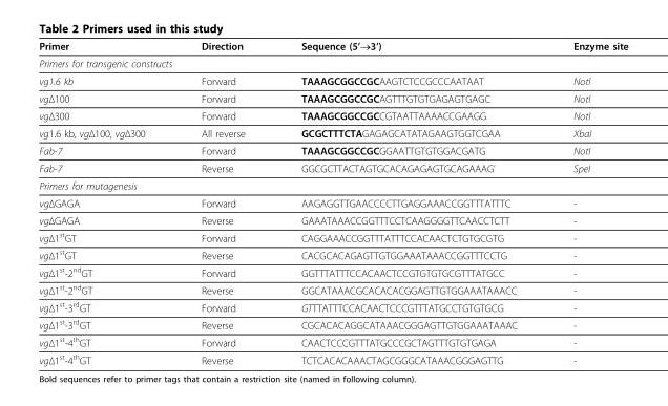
<table><thead><tr><td>Primer</td><td>Direction</td><td>Sequence (5’→3’)</td><td>Enzyme site</td></tr></thead><tbody><tr><td colspan="4">Primers for transgenic constructs</td></tr><tr><td>vg1.6 kb</td><td>Forward</td><td>TAAAGCGGCCGCAAGTCTCCGCCCAATAAT</td><td>NotI</td></tr><tr><td>vgΔ100</td><td>Forward</td><td>TAAAGCGGCCGCAGTTTGTGTGAGAGTGAGC</td><td>NotI</td></tr><tr><td>vgΔ300</td><td>Forward</td><td>TAAAGCGGCCGCCGTAATTAAAACCGAAGG</td><td>NotI</td></tr><tr><td>vg1.6 kb, vgΔ100, vgΔ300</td><td>All reverse</td><td>GCGCTTTCTAGAGAGCATATAGAAGTGGTCGAA</td><td>XbaI</td></tr><tr><td>Fab-7</td><td>Forward</td><td>TAAAGCGGCCGCGGAATTGTGTGGACGATG</td><td>NotI</td></tr><tr><td>Fab-7</td><td>Reverse</td><td>GGCGCTTACTAGTGCACAGAGAGTGCAGAAAG’</td><td>SpeI</td></tr><tr><td colspan="4">Primers for mutagenesis</td></tr><tr><td>vgΔGAGA</td><td>Forward</td><td>AAGAGGTTGAACCCCTTGAGGAAACCGGTTTATTTC</td><td>-</td></tr><tr><td>vgΔGAGA</td><td>Reverse</td><td>GAAATAAACCGGTTTCCTCAAGGGGTTCAACCTCTT</td><td>-</td></tr><tr><td>vgΔ1<sup>st</sup>GT</td><td>Forward</td><td>CAGGAAACCGGTTTATTTCCACAACTCTGTGCGTG</td><td>-</td></tr><tr><td>vgΔ1<sup>st</sup>GT</td><td>Reverse</td><td>CACGCACAGAGTTGTGGAAATAAACCGGTTTCCTG</td><td>-</td></tr><tr><td>vgΔ1<sup>st</sup>-2<sup>nd</sup>GT</td><td>Forward</td><td>GGTTTATTTCCACAACTCCGTGTGTGCGTTTATGCC</td><td>-</td></tr><tr><td>vgΔ1<sup>st</sup>-2<sup>nd</sup>GT</td><td>Reverse</td><td>GGCATAAACGCACACACGGAGTTGTGGAAATAAACC</td><td>-</td></tr><tr><td>vgΔ1<sup>st</sup>-3<sup>rd</sup>GT</td><td>Forward</td><td>GTTTATTTCCACAACTCCCGTTTATGCCTGTGTGCG</td><td>-</td></tr><tr><td>vgΔ1<sup>st</sup>-3<sup>rd</sup>GT</td><td>Reverse</td><td>CGCACACAGGCATAAACGGGAGTTGTGGAAATAAAC</td><td>-</td></tr><tr><td>vgΔ1<sup>st</sup>-4<sup>th</sup>GT</td><td>Forward</td><td>CAACTCCCGTTTATGCCCGCTAGTTTGTGTGAGA</td><td>-</td></tr><tr><td>vgΔ1<sup>st</sup>-4<sup>th</sup>GT</td><td>Reverse</td><td>TCTCACACAAACTAGCGGGCATAAACGGGAGTTG</td><td>-</td></tr></tbody></table>